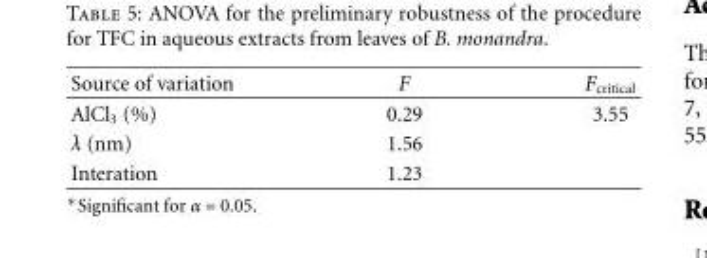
<table><thead><tr><td>Source of variation</td><td>F</td><td>F<sub>critical</sub></td></tr></thead><tbody><tr><td>AlCl<sub>3</sub> (%)</td><td>0.29</td><td>3.55</td></tr><tr><td>λ (nm)</td><td>1.56</td><td></td></tr><tr><td>Interation</td><td>1.23</td><td></td></tr></tbody></table>